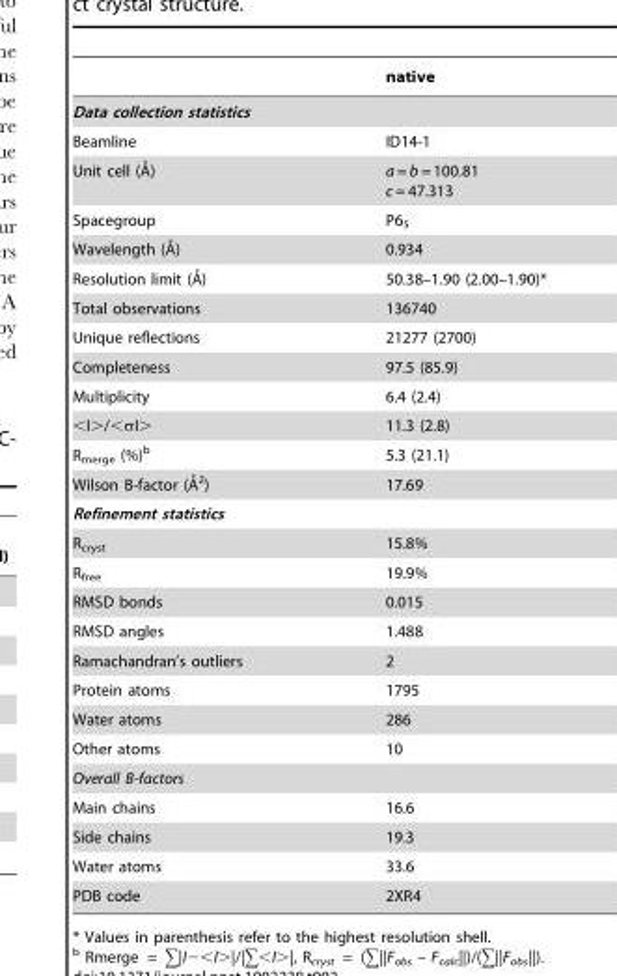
<table><thead><tr><td></td><td>native</td></tr></thead><tbody><tr><td colspan="2">Data collection statistics</td></tr><tr><td>Beamline</td><td>ID14-1</td></tr><tr><td>Unit cell (A˚)</td><td>a = b = 100.81 c = 47.313</td></tr><tr><td>Spacegroup</td><td>P6<sub>5</sub></td></tr><tr><td>Wavelength (A˚)</td><td>0.934</td></tr><tr><td>Resolution limit (A˚)</td><td>50.38–1.90 (2.00–1.90)*</td></tr><tr><td>Total observations</td><td>136740</td></tr><tr><td>Unique reflections</td><td>21277 (2700)</td></tr><tr><td>Completeness</td><td>97.5 (85.9)</td></tr><tr><td>Multiplicity</td><td>6.4 (2.4)</td></tr><tr><td>&lt;I&gt;/&lt;σI&gt;</td><td>11.3 (2.8)</td></tr><tr><td>R<sub>merge</sub> (%)<sup>b</sup></td><td>5.3 (21.1)</td></tr><tr><td>Wilson B-factor (A˚2)</td><td>17.69</td></tr><tr><td colspan="2">Refinement statistics</td></tr><tr><td>R<sub>cryst</sub></td><td>15.8%</td></tr><tr><td>R<sub>free</sub></td><td>19.9%</td></tr><tr><td>RMSD bonds</td><td>0.015</td></tr><tr><td>RMSD angles</td><td>1.488</td></tr><tr><td>Ramachandran’s outliers</td><td>2</td></tr><tr><td>Protein atoms</td><td>1795</td></tr><tr><td>Water atoms</td><td>286</td></tr><tr><td>Other atoms</td><td>10</td></tr><tr><td colspan="2">Overall B-factors</td></tr><tr><td>Main chains</td><td>16.6</td></tr><tr><td>Side chains</td><td>19.3</td></tr><tr><td>Water atoms</td><td>33.6</td></tr><tr><td>PDB code</td><td>2XR4</td></tr></tbody></table>